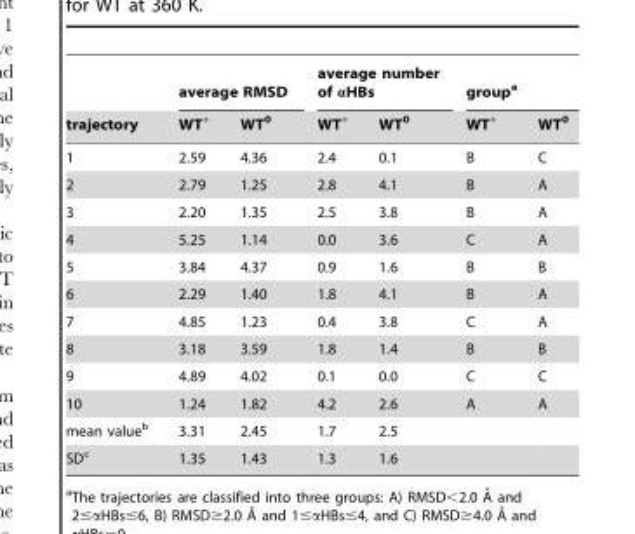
<table><thead><tr><td rowspan="2">trajectory</td><td colspan="2">average RMSD</td><td colspan="2">average number of αHBs</td><td colspan="2">group<sup>a</sup></td></tr><tr><td>WT<sup>+</sup></td><td>WT<sup>0</sup></td><td>WT<sup>+</sup></td><td>WT<sup>0</sup></td><td>WT<sup>+</sup></td><td>WT<sup>0</sup></td></tr></thead><tbody><tr><td>1</td><td>2.59</td><td>4.36</td><td>2.4</td><td>0.1</td><td>B</td><td>C</td></tr><tr><td>2</td><td>2.79</td><td>1.25</td><td>2.8</td><td>4.1</td><td>B</td><td>A</td></tr><tr><td>3</td><td>2.20</td><td>1.35</td><td>2.5</td><td>3.8</td><td>B</td><td>A</td></tr><tr><td>4</td><td>5.25</td><td>1.14</td><td>0.0</td><td>3.6</td><td>C</td><td>A</td></tr><tr><td>5</td><td>3.84</td><td>4.37</td><td>0.9</td><td>1.6</td><td>B</td><td>B</td></tr><tr><td>6</td><td>2.29</td><td>1.40</td><td>1.8</td><td>4.1</td><td>B</td><td>A</td></tr><tr><td>7</td><td>4.85</td><td>1.23</td><td>0.4</td><td>3.8</td><td>C</td><td>A</td></tr><tr><td>8</td><td>3.18</td><td>3.59</td><td>1.8</td><td>1.4</td><td>B</td><td>B</td></tr><tr><td>9</td><td>4.89</td><td>4.02</td><td>0.1</td><td>0.0</td><td>C</td><td>C</td></tr><tr><td>10</td><td>1.24</td><td>1.82</td><td>4.2</td><td>2.6</td><td>A</td><td>A</td></tr><tr><td>mean value<sup>b</sup></td><td>3.31</td><td>2.45</td><td>1.7</td><td>2.5</td><td></td><td></td></tr><tr><td>SD<sup>c</sup></td><td>1.35</td><td>1.43</td><td>1.3</td><td>1.6</td><td></td><td></td></tr></tbody></table>